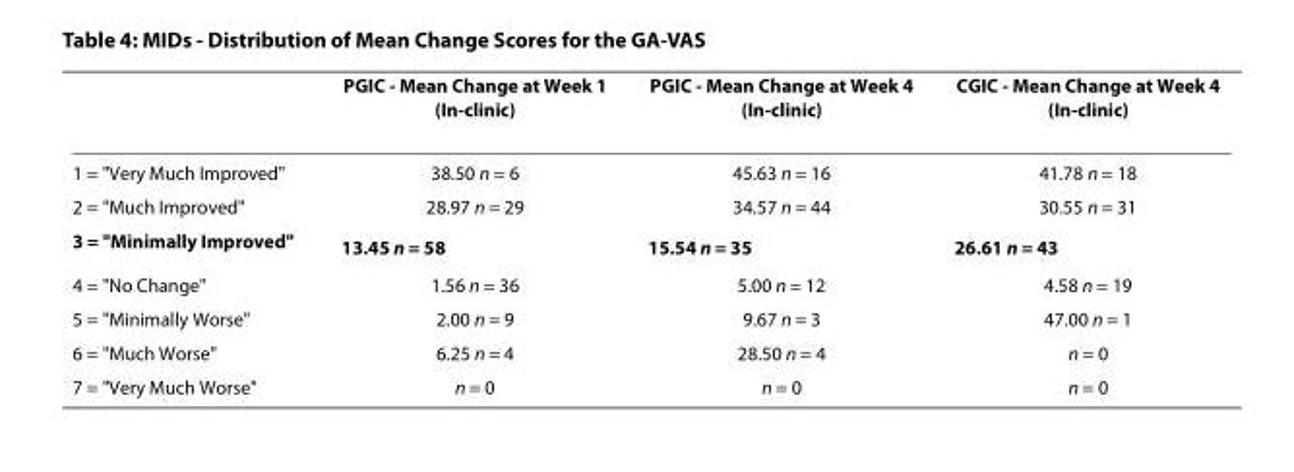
<table><thead><tr><td></td><td>PGIC - Mean Change at Week 1 (In-clinic)</td><td>PGIC - Mean Change at Week 4 (In-clinic)</td><td>CGIC - Mean Change at Week 4 (In-clinic)</td></tr></thead><tbody><tr><td>1 = &quot;Very Much Improved&quot;</td><td>38.50 n = 6</td><td>45.63 n = 16</td><td>41.78 n = 18</td></tr><tr><td>2 = &quot;Much Improved&quot;</td><td>28.97 n = 29</td><td>34.57 n = 44</td><td>30.55 n = 31</td></tr><tr><td>3 = &quot;Minimally Improved&quot;</td><td>13.45 n = 58</td><td>15.54 n = 35</td><td>26.61 n = 43</td></tr><tr><td>4 = &quot;No Change&quot;</td><td>1.56 n = 36</td><td>5.00 n = 12</td><td>4.58 n = 19</td></tr><tr><td>5 = &quot;Minimally Worse&quot;</td><td>2.00 n = 9</td><td>9.67 n = 3</td><td>47.00 n = 1</td></tr><tr><td>6 = &quot;Much Worse&quot;</td><td>6.25 n = 4</td><td>28.50 n = 4</td><td>n = 0</td></tr><tr><td>7 = &quot;Very Much Worse&quot;</td><td>n = 0</td><td>n = 0</td><td>n = 0</td></tr></tbody></table>